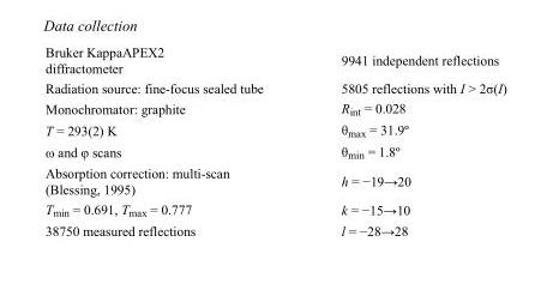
<table><tbody><tr><td>Bruker KappaAPEX2 diffractometer</td><td>9941 independent reflections</td></tr><tr><td>Radiation source: fine-focus sealed tube</td><td>5805 reflections with I &gt; 2σ(I)</td></tr><tr><td>Monochromator: graphite</td><td>R<sub>int</sub> = 0.028</td></tr><tr><td>T = 293(2) K</td><td>θ<sub>max</sub> = 31.9º</td></tr><tr><td>ω and φ scans</td><td>θ<sub>min</sub> = 1.8º</td></tr><tr><td>Absorption correction: multi-scan (Blessing, 1995)</td><td>h = −19→20</td></tr><tr><td>T<sub>min</sub> = 0.691, T<sub>max</sub> = 0.777</td><td>k = −15→10</td></tr><tr><td>38750 measured reflections</td><td>l = −28→28</td></tr></tbody></table>